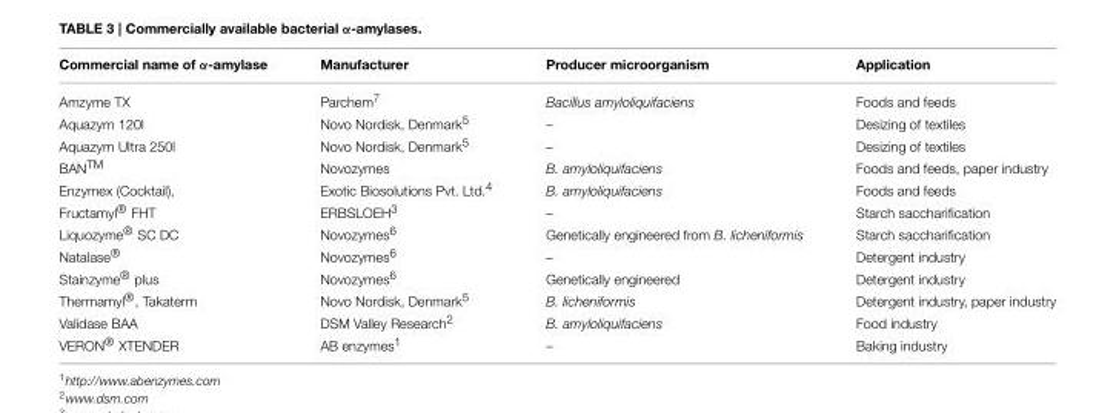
<table><thead><tr><td>Commercial name of α-amylase</td><td>Manufacturer</td><td>Producer microorganism</td><td>Application</td></tr></thead><tbody><tr><td>Amzyme TX</td><td>Parchem<sup>7</sup></td><td>Bacillus amyloliquifaciens</td><td>Foods and feeds</td></tr><tr><td>Aquazym 120l</td><td>Novo Nordisk, Denmark<sup>5</sup></td><td>–</td><td>Desizing of textiles</td></tr><tr><td>Aquazym Ultra 250l</td><td>Novo Nordisk, Denmark<sup>5</sup></td><td>–</td><td>Desizing of textiles</td></tr><tr><td>BAN<sup>TM</sup></td><td>Novozymes</td><td>B. amyloliquifaciens</td><td>Foods and feeds, paper industry</td></tr><tr><td>Enzymex (Cocktail),</td><td>Exotic Biosolutions Pvt. Ltd.<sup>4</sup></td><td>B. amyloliquifaciens</td><td>Foods and feeds</td></tr><tr><td>Fructamyl® FHT</td><td>ERBSLOEH<sup>3</sup></td><td>–</td><td>Starch saccharification</td></tr><tr><td>Liquozyme® SC DC</td><td>Novozymes<sup>6</sup></td><td>Genetically engineered from B. licheniformis</td><td>Starch saccharification</td></tr><tr><td>Natalase®</td><td>Novozymes<sup>6</sup></td><td>–</td><td>Detergent industry</td></tr><tr><td>Stainzyme® plus</td><td>Novozymes<sup>6</sup></td><td>Genetically engineered</td><td>Detergent industry</td></tr><tr><td>Thermamyl®, Takaterm</td><td>Novo Nordisk, Denmark<sup>5</sup></td><td>B. licheniformis</td><td>Detergent industry, paper industry</td></tr><tr><td>Validase BAA</td><td>DSM Valley Research<sup>2</sup></td><td>B. amyloliquifaciens</td><td>Food industry</td></tr><tr><td>VERON® XTENDER</td><td>AB enzymes<sup>1</sup></td><td>–</td><td>Baking industry</td></tr></tbody></table>